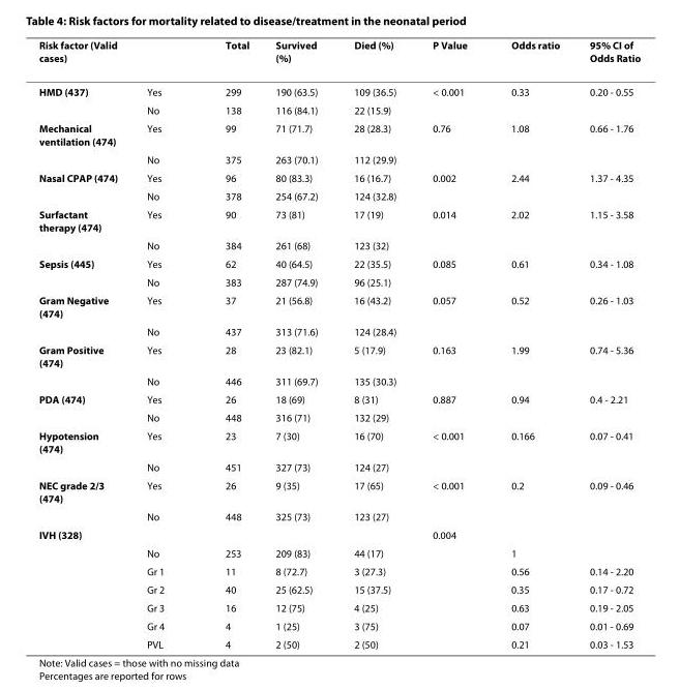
<table><thead><tr><td>Risk factor (Valid cases)</td><td></td><td>Total</td><td>Survived (%)</td><td>Died (%)</td><td>P Value</td><td>Odds ratio</td><td>95% CI of Odds Ratio</td></tr></thead><tbody><tr><td rowspan="2">HMD (437)</td><td>Yes</td><td>299</td><td>190 (63.5)</td><td>109 (36.5)</td><td>&lt; 0.001</td><td>0.33</td><td>0.20 - 0.55</td></tr><tr><td>No</td><td>138</td><td>116 (84.1)</td><td>22 (15.9)</td><td></td><td></td><td></td></tr><tr><td rowspan="2">Mechanical ventilation (474)</td><td>Yes</td><td>99</td><td>71 (71.7)</td><td>28 (28.3)</td><td>0.76</td><td>1.08</td><td>0.66 - 1.76</td></tr><tr><td>No</td><td>375</td><td>263 (70.1)</td><td>112 (29.9)</td><td></td><td></td><td></td></tr><tr><td rowspan="2">Nasal CPAP (474)</td><td>Yes</td><td>96</td><td>80 (83.3)</td><td>16 (16.7)</td><td>0.002</td><td>2.44</td><td>1.37 - 4.35</td></tr><tr><td>No</td><td>378</td><td>254 (67.2)</td><td>124 (32.8)</td><td></td><td></td><td></td></tr><tr><td rowspan="2">Surfactant therapy (474)</td><td>Yes</td><td>90</td><td>73 (81)</td><td>17 (19)</td><td>0.014</td><td>2.02</td><td>1.15 - 3.58</td></tr><tr><td>No</td><td>384</td><td>261 (68)</td><td>123 (32)</td><td></td><td></td><td></td></tr><tr><td rowspan="2">Sepsis (445)</td><td>Yes</td><td>62</td><td>40 (64.5)</td><td>22 (35.5)</td><td>0.085</td><td>0.61</td><td>0.34 - 1.08</td></tr><tr><td>No</td><td>383</td><td>287 (74.9)</td><td>96 (25.1)</td><td></td><td></td><td></td></tr><tr><td rowspan="2">Gram Negative (474)</td><td>Yes</td><td>37</td><td>21 (56.8)</td><td>16 (43.2)</td><td>0.057</td><td>0.52</td><td>0.26 - 1.03</td></tr><tr><td>No</td><td>437</td><td>313 (71.6)</td><td>124 (28.4)</td><td></td><td></td><td></td></tr><tr><td rowspan="2">Gram Positive (474)</td><td>Yes</td><td>28</td><td>23 (82.1)</td><td>5 (17.9)</td><td>0.163</td><td>1.99</td><td>0.74 - 5.36</td></tr><tr><td>No</td><td>446</td><td>311 (69.7)</td><td>135 (30.3)</td><td></td><td></td><td></td></tr><tr><td rowspan="2">PDA (474)</td><td>Yes</td><td>26</td><td>18 (69)</td><td>8 (31)</td><td>0.887</td><td>0.94</td><td>0.4 - 2.21</td></tr><tr><td>No</td><td>448</td><td>316 (71)</td><td>132 (29)</td><td></td><td></td><td></td></tr><tr><td rowspan="2">Hypotension (474)</td><td>Yes</td><td>23</td><td>7 (30)</td><td>16 (70)</td><td>&lt; 0.001</td><td>0.166</td><td>0.07 - 0.41</td></tr><tr><td>No</td><td>451</td><td>327 (73)</td><td>124 (27)</td><td></td><td></td><td></td></tr><tr><td rowspan="2">NEC grade 2/3 (474)</td><td>Yes</td><td>26</td><td>9 (35)</td><td>17 (65)</td><td>&lt; 0.001</td><td>0.2</td><td>0.09 - 0.46</td></tr><tr><td>No</td><td>448</td><td>325 (73)</td><td>123 (27)</td><td></td><td></td><td></td></tr><tr><td rowspan="7">IVH (328)</td><td></td><td></td><td></td><td></td><td>0.004</td><td></td><td></td></tr><tr><td>No</td><td>253</td><td>209 (83)</td><td>44 (17)</td><td></td><td>1</td><td></td></tr><tr><td>Gr 1</td><td>11</td><td>8 (72.7)</td><td>3 (27.3)</td><td></td><td>0.56</td><td>0.14 - 2.20</td></tr><tr><td>Gr 2</td><td>40</td><td>25 (62.5)</td><td>15 (37.5)</td><td></td><td>0.35</td><td>0.17 - 0.72</td></tr><tr><td>Gr 3</td><td>16</td><td>12 (75)</td><td>4 (25)</td><td></td><td>0.63</td><td>0.19 - 2.05</td></tr><tr><td>Gr 4</td><td>4</td><td>1 (25)</td><td>3 (75)</td><td></td><td>0.07</td><td>0.01 - 0.69</td></tr><tr><td>PVL</td><td>4</td><td>2 (50)</td><td>2 (50)</td><td></td><td>0.21</td><td>0.03 - 1.53</td></tr></tbody></table>